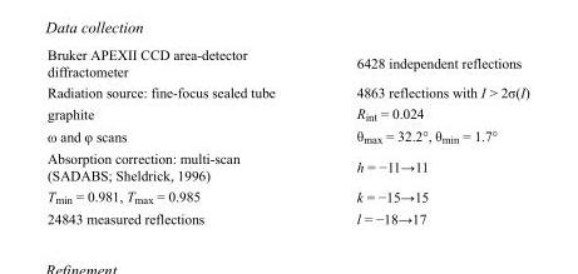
<table><tbody><tr><td>Bruker APEXII CCD area-detector diffractometer</td><td>6428 independent reflections</td></tr><tr><td>Radiation source: fine-focus sealed tube</td><td>4863 reflections with I &gt; 2σ(I)</td></tr><tr><td>graphite</td><td>R<sub>int</sub> = 0.024</td></tr><tr><td>ω and φ scans</td><td>θ<sub>max</sub> = 32.2°, θ<sub>min</sub> = 1.7°</td></tr><tr><td>Absorption correction: multi-scan (SADABS; Sheldrick, 1996)</td><td>h = −11→11</td></tr><tr><td>T<sub>min</sub> = 0.981, T<sub>max</sub> = 0.985</td><td>k = −15→15</td></tr><tr><td>24843 measured reflections</td><td>l = −18→17</td></tr></tbody></table>